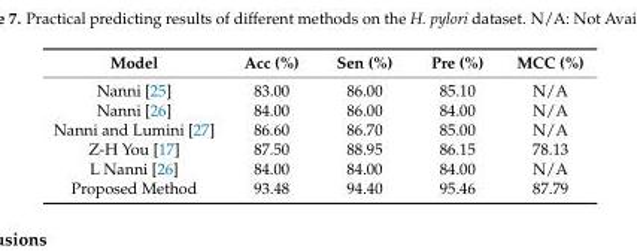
<table><thead><tr><td>Model</td><td>Acc (%)</td><td>Sen (%)</td><td>Pre (%)</td><td>MCC (%)</td></tr></thead><tbody><tr><td>Nanni [25]</td><td>83.00</td><td>86.00</td><td>85.10</td><td>N/A</td></tr><tr><td>Nanni [26]</td><td>84.00</td><td>86.00</td><td>84.00</td><td>N/A</td></tr><tr><td>Nanni and Lumini [27]</td><td>86.60</td><td>86.70</td><td>85.00</td><td>N/A</td></tr><tr><td>Z-H You [17]</td><td>87.50</td><td>88.95</td><td>86.15</td><td>78.13</td></tr><tr><td>L Nanni [26]</td><td>84.00</td><td>84.00</td><td>84.00</td><td>N/A</td></tr><tr><td>Proposed Method</td><td>93.48</td><td>94.40</td><td>95.46</td><td>87.79</td></tr></tbody></table>